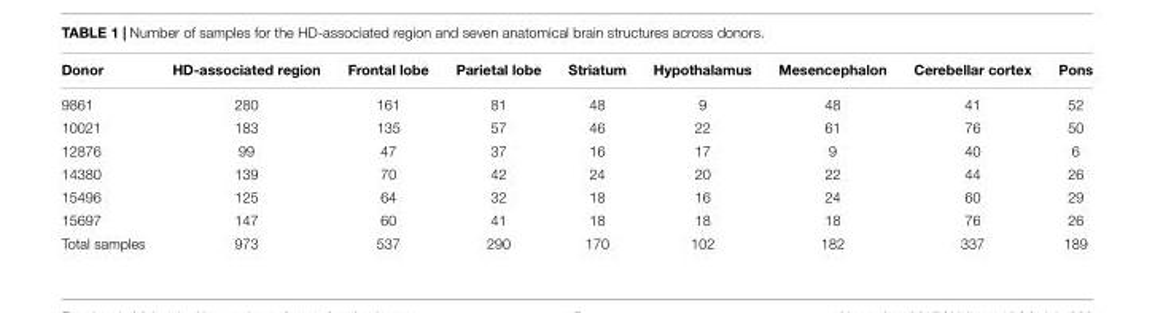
<table><thead><tr><td>Donor</td><td>HD-associated region</td><td>Frontal lobe</td><td>Parietal lobe</td><td>Striatum</td><td>Hypothalamus</td><td>Mesencephalon</td><td>Cerebellar cortex</td><td>Pons</td></tr></thead><tbody><tr><td>9861</td><td>280</td><td>161</td><td>81</td><td>48</td><td>9</td><td>48</td><td>41</td><td>52</td></tr><tr><td>10021</td><td>183</td><td>135</td><td>57</td><td>46</td><td>22</td><td>61</td><td>76</td><td>50</td></tr><tr><td>12876</td><td>99</td><td>47</td><td>37</td><td>16</td><td>17</td><td>9</td><td>40</td><td>6</td></tr><tr><td>14380</td><td>139</td><td>70</td><td>42</td><td>24</td><td>20</td><td>22</td><td>44</td><td>26</td></tr><tr><td>15496</td><td>125</td><td>64</td><td>32</td><td>18</td><td>16</td><td>24</td><td>60</td><td>29</td></tr><tr><td>15697</td><td>147</td><td>60</td><td>41</td><td>18</td><td>18</td><td>18</td><td>76</td><td>26</td></tr><tr><td>Total samples</td><td>973</td><td>537</td><td>290</td><td>170</td><td>102</td><td>182</td><td>337</td><td>189</td></tr></tbody></table>